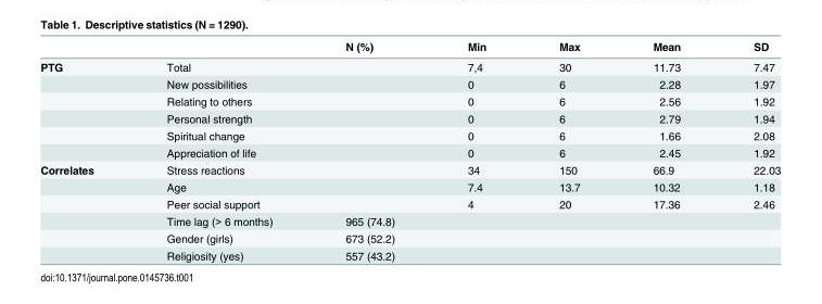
<table><thead><tr><td></td><td></td><td>N (%)</td><td>Min</td><td>Max</td><td>Mean</td><td>SD</td></tr></thead><tbody><tr><td rowspan="6">PTG</td><td>Total</td><td></td><td>7,4</td><td>30</td><td>11.73</td><td>7.47</td></tr><tr><td>New possibilities</td><td></td><td>0</td><td>6</td><td>2.28</td><td>1.97</td></tr><tr><td>Relating to others</td><td></td><td>0</td><td>6</td><td>2.56</td><td>1.92</td></tr><tr><td>Personal strength</td><td></td><td>0</td><td>6</td><td>2.79</td><td>1.94</td></tr><tr><td>Spiritual change</td><td></td><td>0</td><td>6</td><td>1.66</td><td>2.08</td></tr><tr><td>Appreciation of life</td><td></td><td>0</td><td>6</td><td>2.45</td><td>1.92</td></tr><tr><td rowspan="6">Correlates</td><td>Stress reactions</td><td></td><td>34</td><td>150</td><td>66.9</td><td>22.03</td></tr><tr><td>Age</td><td></td><td>7.4</td><td>13.7</td><td>10.32</td><td>1.18</td></tr><tr><td>Peer social support</td><td></td><td>4</td><td>20</td><td>17.36</td><td>2.46</td></tr><tr><td>Time lag (&gt; 6 months)</td><td>965 (74.8)</td><td></td><td></td><td></td><td></td></tr><tr><td>Gender (girls)</td><td>673 (52.2)</td><td></td><td></td><td></td><td></td></tr><tr><td>Religiosity (yes)</td><td>557 (43.2)</td><td></td><td></td><td></td><td></td></tr></tbody></table>